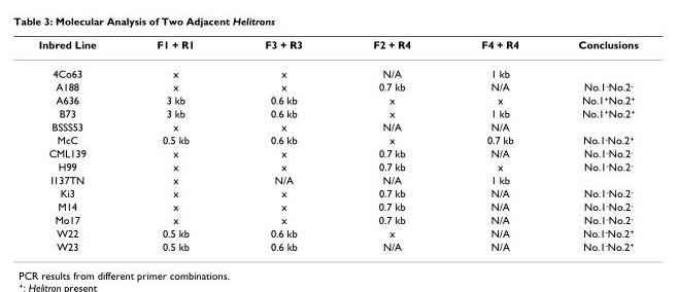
<table><thead><tr><td>Inbred Line</td><td>F1 + R1</td><td>F3 + R3</td><td>F2 + R4</td><td>F4 + R4</td><td>Conclusions</td></tr></thead><tbody><tr><td>4Co63</td><td>x</td><td>x</td><td>N/A</td><td>1 kb</td><td></td></tr><tr><td>A188</td><td>x</td><td>x</td><td>0.7 kb</td><td>N/A</td><td>No.1<sup>-</sup>No.2<sup>-</sup></td></tr><tr><td>A636</td><td>3 kb</td><td>0.6 kb</td><td>x</td><td>x</td><td>No.1<sup>+</sup>No.2<sup>+</sup></td></tr><tr><td>B73</td><td>3 kb</td><td>0.6 kb</td><td>x</td><td>1 kb</td><td>No.1<sup>+</sup>No.2<sup>+</sup></td></tr><tr><td>BSSS53</td><td>x</td><td>x</td><td>N/A</td><td>N/A</td><td></td></tr><tr><td>McC</td><td>0.5 kb</td><td>0.6 kb</td><td>x</td><td>0.7 kb</td><td>No.1<sup>-</sup>No.2<sup>+</sup></td></tr><tr><td>CML139</td><td>x</td><td>x</td><td>0.7 kb</td><td>N/A</td><td>No.1<sup>-</sup>No.2<sup>-</sup></td></tr><tr><td>H99</td><td>x</td><td>x</td><td>0.7 kb</td><td>x</td><td>No.1<sup>-</sup>No.2<sup>-</sup></td></tr><tr><td>I137TN</td><td>x</td><td>N/A</td><td>N/A</td><td>1 kb</td><td></td></tr><tr><td>Ki3</td><td>x</td><td>x</td><td>0.7 kb</td><td>N/A</td><td>No.1<sup>-</sup>No.2<sup>-</sup></td></tr><tr><td>M14</td><td>x</td><td>x</td><td>0.7 kb</td><td>N/A</td><td>No.1<sup>-</sup>No.2<sup>-</sup></td></tr><tr><td>Mo17</td><td>x</td><td>x</td><td>0.7 kb</td><td>N/A</td><td>No.1<sup>-</sup>No.2<sup>-</sup></td></tr><tr><td>W22</td><td>0.5 kb</td><td>0.6 kb</td><td>x</td><td>N/A</td><td>No.1<sup>-</sup>No.2<sup>+</sup></td></tr><tr><td>W23</td><td>0.5 kb</td><td>0.6 kb</td><td>N/A</td><td>N/A</td><td>No.1<sup>-</sup>No.2<sup>+</sup></td></tr></tbody></table>